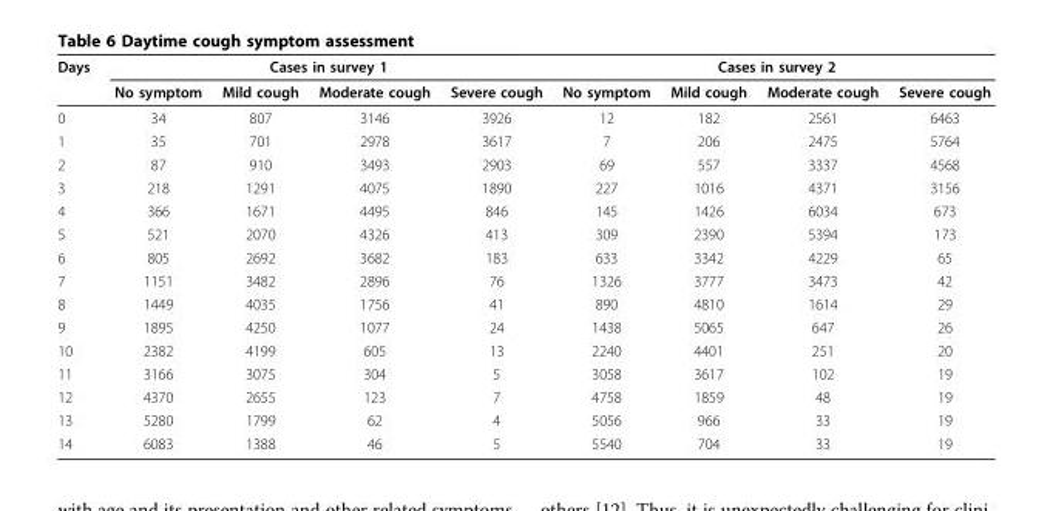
<table><thead><tr><td rowspan="2">Days</td><td colspan="4">Cases in survey 1</td><td colspan="4">Cases in survey 2</td></tr><tr><td>No symptom</td><td>Mild cough</td><td>Moderate cough</td><td>Severe cough</td><td>No symptom</td><td>Mild cough</td><td>Moderate cough</td><td>Severe cough</td></tr></thead><tbody><tr><td>0</td><td>34</td><td>807</td><td>3146</td><td>3926</td><td>12</td><td>182</td><td>2561</td><td>6463</td></tr><tr><td>1</td><td>35</td><td>701</td><td>2978</td><td>3617</td><td>7</td><td>206</td><td>2475</td><td>5764</td></tr><tr><td>2</td><td>87</td><td>910</td><td>3493</td><td>2903</td><td>69</td><td>557</td><td>3337</td><td>4568</td></tr><tr><td>3</td><td>218</td><td>1291</td><td>4075</td><td>1890</td><td>227</td><td>1016</td><td>4371</td><td>3156</td></tr><tr><td>4</td><td>366</td><td>1671</td><td>4495</td><td>846</td><td>145</td><td>1426</td><td>6034</td><td>673</td></tr><tr><td>5</td><td>521</td><td>2070</td><td>4326</td><td>413</td><td>309</td><td>2390</td><td>5394</td><td>173</td></tr><tr><td>6</td><td>805</td><td>2692</td><td>3682</td><td>183</td><td>633</td><td>3342</td><td>4229</td><td>65</td></tr><tr><td>7</td><td>1151</td><td>3482</td><td>2896</td><td>76</td><td>1326</td><td>3777</td><td>3473</td><td>42</td></tr><tr><td>8</td><td>1449</td><td>4035</td><td>1756</td><td>41</td><td>890</td><td>4810</td><td>1614</td><td>29</td></tr><tr><td>9</td><td>1895</td><td>4250</td><td>1077</td><td>24</td><td>1438</td><td>5065</td><td>647</td><td>26</td></tr><tr><td>10</td><td>2382</td><td>4199</td><td>605</td><td>13</td><td>2240</td><td>4401</td><td>251</td><td>20</td></tr><tr><td>11</td><td>3166</td><td>3075</td><td>304</td><td>5</td><td>3058</td><td>3617</td><td>102</td><td>19</td></tr><tr><td>12</td><td>4370</td><td>2655</td><td>123</td><td>7</td><td>4758</td><td>1859</td><td>48</td><td>19</td></tr><tr><td>13</td><td>5280</td><td>1799</td><td>62</td><td>4</td><td>5056</td><td>966</td><td>33</td><td>19</td></tr><tr><td>14</td><td>6083</td><td>1388</td><td>46</td><td>5</td><td>5540</td><td>704</td><td>33</td><td>19</td></tr></tbody></table>